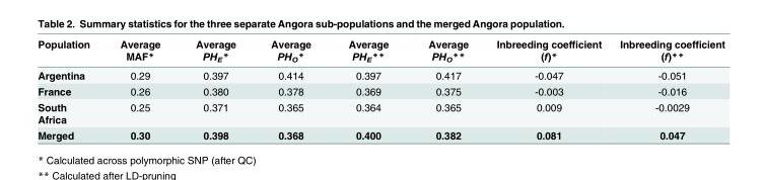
<table><thead><tr><td>Population</td><td>Average MAF*</td><td>Average PH<sub>E</sub>*</td><td>Average PH<sub>O</sub>*</td><td>Average PH<sub>E</sub>**</td><td>Average PH<sub>O</sub>**</td><td>Inbreeding coefficient (f)*</td><td>Inbreeding coefficient (f)**</td></tr></thead><tbody><tr><td>Argentina</td><td>0.29</td><td>0.397</td><td>0.414</td><td>0.397</td><td>0.417</td><td>-0.047</td><td>-0.051</td></tr><tr><td>France</td><td>0.26</td><td>0.380</td><td>0.378</td><td>0.369</td><td>0.375</td><td>-0.003</td><td>-0.016</td></tr><tr><td>South Africa</td><td>0.25</td><td>0.371</td><td>0.365</td><td>0.364</td><td>0.365</td><td>0.009</td><td>-0.0029</td></tr><tr><td>Merged</td><td>0.30</td><td>0.398</td><td>0.368</td><td>0.400</td><td>0.382</td><td>0.081</td><td>0.047</td></tr></tbody></table>